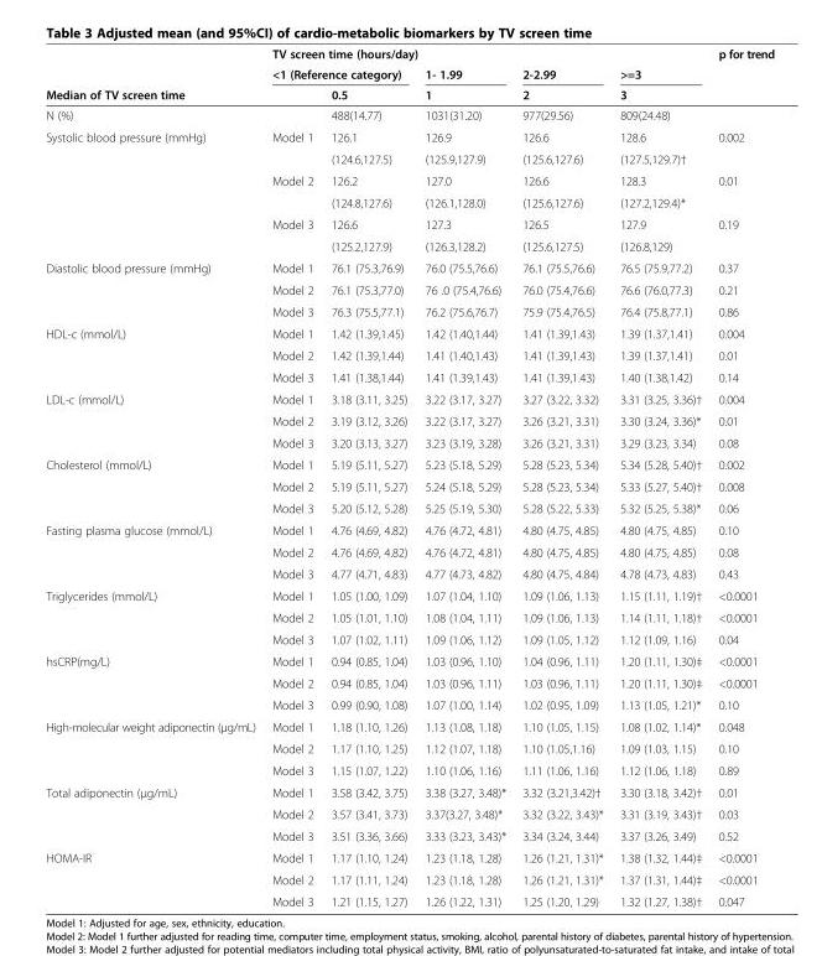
<table><thead><tr><td rowspan="2"></td><td rowspan="2" colspan="2">TV screen time (hours/day) &lt;1 (Reference category)</td><td rowspan="4">1- 1.99 1 1031(31.20)</td><td rowspan="4">2-2.99 2 977(29.56)</td><td rowspan="4">&gt;=3 3 809(24.48)</td><td rowspan="4">p for trend</td></tr><tr></tr><tr><td colspan="2">Median of TV screen time</td><td rowspan="2">0.5 488(14.77)</td></tr><tr><td>N (%)</td><td></td></tr></thead><tbody><tr><td rowspan="6">Systolic blood pressure (mmHg)</td><td>Model 1</td><td>126.1</td><td>126.9</td><td>126.6</td><td>128.6</td><td>0.002</td></tr><tr><td></td><td>(124.6,127.5)</td><td>(125.9,127.9)</td><td>(125.6,127.6)</td><td>(127.5,129.7)†</td><td></td></tr><tr><td>Model 2</td><td>126.2</td><td>127.0</td><td>126.6</td><td>128.3</td><td>0.01</td></tr><tr><td></td><td>(124.8,127.6)</td><td>(126.1,128.0)</td><td>(125.6,127.6)</td><td>(127.2,129.4)*</td><td></td></tr><tr><td>Model 3</td><td>126.6</td><td>127.3</td><td>126.5</td><td>127.9</td><td>0.19</td></tr><tr><td></td><td>(125.2,127.9)</td><td>(126.3,128.2)</td><td>(125.6,127.5)</td><td>(126.8,129)</td><td></td></tr><tr><td rowspan="3">Diastolic blood pressure (mmHg)</td><td>Model 1</td><td>76.1 (75.3,76.9)</td><td>76.0 (75.5,76.6)</td><td>76.1 (75.5,76.6)</td><td>76.5 (75.9,77.2)</td><td>0.37</td></tr><tr><td>Model 2</td><td>76.1 (75.3,77.0)</td><td>76 .0 (75.4,76.6)</td><td>76.0 (75.4,76.6)</td><td>76.6 (76.0,77.3)</td><td>0.21</td></tr><tr><td>Model 3</td><td>76.3 (75.5,77.1)</td><td>76.2 (75.6,76.7)</td><td>75.9 (75.4,76.5)</td><td>76.4 (75.8,77.1)</td><td>0.86</td></tr><tr><td rowspan="3">HDL-c (mmol/L)</td><td>Model 1</td><td>1.42 (1.39,1.45)</td><td>1.42 (1.40,1.44)</td><td>1.41 (1.39,1.43)</td><td>1.39 (1.37,1.41)</td><td>0.004</td></tr><tr><td>Model 2</td><td>1.42 (1.39,1.44)</td><td>1.41 (1.40,1.43)</td><td>1.41 (1.39,1.43)</td><td>1.39 (1.37,1.41)</td><td>0.01</td></tr><tr><td>Model 3</td><td>1.41 (1.38,1.44)</td><td>1.41 (1.39,1.43)</td><td>1.41 (1.39,1.43)</td><td>1.40 (1.38,1.42)</td><td>0.14</td></tr><tr><td rowspan="3">LDL-c (mmol/L)</td><td>Model 1</td><td>3.18 (3.11, 3.25)</td><td>3.22 (3.17, 3.27)</td><td>3.27 (3.22, 3.32)</td><td>3.31 (3.25, 3.36)†</td><td>0.004</td></tr><tr><td>Model 2</td><td>3.19 (3.12, 3.26)</td><td>3.22 (3.17, 3.27)</td><td>3.26 (3.21, 3.31)</td><td>3.30 (3.24, 3.36)*</td><td>0.01</td></tr><tr><td>Model 3</td><td>3.20 (3.13, 3.27)</td><td>3.23 (3.19, 3.28)</td><td>3.26 (3.21, 3.31)</td><td>3.29 (3.23, 3.34)</td><td>0.08</td></tr><tr><td rowspan="3">Cholesterol (mmol/L)</td><td>Model 1</td><td>5.19 (5.11, 5.27)</td><td>5.23 (5.18, 5.29)</td><td>5.28 (5.23, 5.34)</td><td>5.34 (5.28, 5.40)†</td><td>0.002</td></tr><tr><td>Model 2</td><td>5.19 (5.11, 5.27)</td><td>5.24 (5.18, 5.29)</td><td>5.28 (5.23, 5.34)</td><td>5.33 (5.27, 5.40)†</td><td>0.008</td></tr><tr><td>Model 3</td><td>5.20 (5.12, 5.28)</td><td>5.25 (5.19, 5.30)</td><td>5.28 (5.22, 5.33)</td><td>5.32 (5.25, 5.38)*</td><td>0.06</td></tr><tr><td rowspan="3">Fasting plasma glucose (mmol/L)</td><td>Model 1</td><td>4.76 (4.69, 4.82)</td><td>4.76 (4.72, 4.81)</td><td>4.80 (4.75, 4.85)</td><td>4.80 (4.75, 4.85)</td><td>0.10</td></tr><tr><td>Model 2</td><td>4.76 (4.69, 4.82)</td><td>4.76 (4.72, 4.81)</td><td>4.80 (4.75, 4.85)</td><td>4.80 (4.75, 4.85)</td><td>0.08</td></tr><tr><td>Model 3</td><td>4.77 (4.71, 4.83)</td><td>4.77 (4.73, 4.82)</td><td>4.80 (4.75, 4.84)</td><td>4.78 (4.73, 4.83)</td><td>0.43</td></tr><tr><td rowspan="3">Triglycerides (mmol/L)</td><td>Model 1</td><td>1.05 (1.00, 1.09)</td><td>1.07 (1.04, 1.10)</td><td>1.09 (1.06, 1.13)</td><td>1.15 (1.11, 1.19)†</td><td>&lt;0.0001</td></tr><tr><td>Model 2</td><td>1.05 (1.01, 1.10)</td><td>1.08 (1.04, 1.11)</td><td>1.09 (1.06, 1.13)</td><td>1.14 (1.11, 1.18)†</td><td>&lt;0.0001</td></tr><tr><td>Model 3</td><td>1.07 (1.02, 1.11)</td><td>1.09 (1.06, 1.12)</td><td>1.09 (1.05, 1.12)</td><td>1.12 (1.09, 1.16)</td><td>0.04</td></tr><tr><td rowspan="3">hsCRP(mg/L)</td><td>Model 1</td><td>0.94 (0.85, 1.04)</td><td>1.03 (0.96, 1.10)</td><td>1.04 (0.96, 1.11)</td><td>1.20 (1.11, 1.30)‡</td><td>&lt;0.0001</td></tr><tr><td>Model 2</td><td>0.94 (0.85, 1.04)</td><td>1.03 (0.96, 1.11)</td><td>1.03 (0.96, 1.11)</td><td>1.20 (1.11, 1.30)‡</td><td>&lt;0.0001</td></tr><tr><td>Model 3</td><td>0.99 (0.90, 1.08)</td><td>1.07 (1.00, 1.14)</td><td>1.02 (0.95, 1.09)</td><td>1.13 (1.05, 1.21)*</td><td>0.10</td></tr><tr><td rowspan="3">High-molecular weight adiponectin (μg/mL)</td><td>Model 1</td><td>1.18 (1.10, 1.26)</td><td>1.13 (1.08, 1.18)</td><td>1.10 (1.05, 1.15)</td><td>1.08 (1.02, 1.14)*</td><td>0.048</td></tr><tr><td>Model 2</td><td>1.17 (1.10, 1.25)</td><td>1.12 (1.07, 1.18)</td><td>1.10 (1.05,1.16)</td><td>1.09 (1.03, 1.15)</td><td>0.10</td></tr><tr><td>Model 3</td><td>1.15 (1.07, 1.22)</td><td>1.10 (1.06, 1.16)</td><td>1.11 (1.06, 1.16)</td><td>1.12 (1.06, 1.18)</td><td>0.89</td></tr><tr><td rowspan="3">Total adiponectin (μg/mL)</td><td>Model 1</td><td>3.58 (3.42, 3.75)</td><td>3.38 (3.27, 3.48)*</td><td>3.32 (3.21,3.42)†</td><td>3.30 (3.18, 3.42)†</td><td>0.01</td></tr><tr><td>Model 2</td><td>3.57 (3.41, 3.73)</td><td>3.37(3.27, 3.48)*</td><td>3.32 (3.22, 3.43)*</td><td>3.31 (3.19, 3.43)†</td><td>0.03</td></tr><tr><td>Model 3</td><td>3.51 (3.36, 3.66)</td><td>3.33 (3.23, 3.43)*</td><td>3.34 (3.24, 3.44)</td><td>3.37 (3.26, 3.49)</td><td>0.52</td></tr><tr><td rowspan="3">HOMA-IR</td><td>Model 1</td><td>1.17 (1.10, 1.24)</td><td>1.23 (1.18, 1.28)</td><td>1.26 (1.21, 1.31)*</td><td>1.38 (1.32, 1.44)‡</td><td>&lt;0.0001</td></tr><tr><td>Model 2</td><td>1.17 (1.11, 1.24)</td><td>1.23 (1.18, 1.28)</td><td>1.26 (1.21, 1.31)*</td><td>1.37 (1.31, 1.44)‡</td><td>&lt;0.0001</td></tr><tr><td>Model 3</td><td>1.21 (1.15, 1.27)</td><td>1.26 (1.22, 1.31)</td><td>1.25 (1.20, 1.29)</td><td>1.32 (1.27, 1.38)†</td><td>0.047</td></tr></tbody></table>